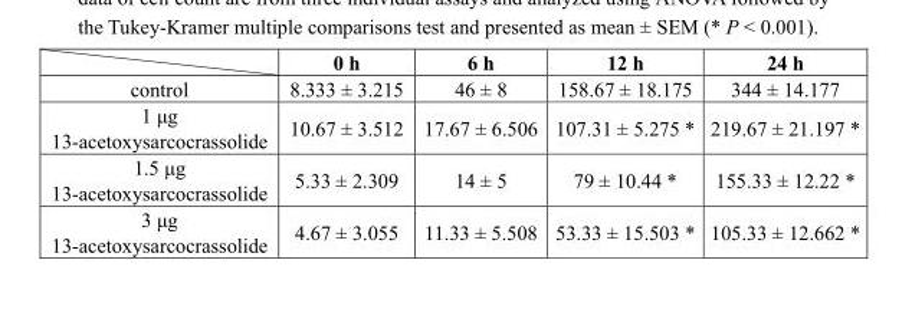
<table><thead><tr><td></td><td>0 h</td><td>6 h</td><td>12 h</td><td>24 h</td></tr></thead><tbody><tr><td>control</td><td>8.333 ± 3.215</td><td>46 ± 8</td><td>158.67 ± 18.175</td><td>344 ± 14.177</td></tr><tr><td>1 μg 13-acetoxysarcocrassolide</td><td>10.67 ± 3.512</td><td>17.67 ± 6.506</td><td>107.31 ± 5.275 *</td><td>219.67 ± 21.197 *</td></tr><tr><td>1.5 μg 13-acetoxysarcocrassolide</td><td>5.33 ± 2.309</td><td>14 ± 5</td><td>79 ± 10.44 *</td><td>155.33 ± 12.22 *</td></tr><tr><td>3 μg 13-acetoxysarcocrassolide</td><td>4.67 ± 3.055</td><td>11.33 ± 5.508</td><td>53.33 ± 15.503 *</td><td>105.33 ± 12.662 *</td></tr></tbody></table>